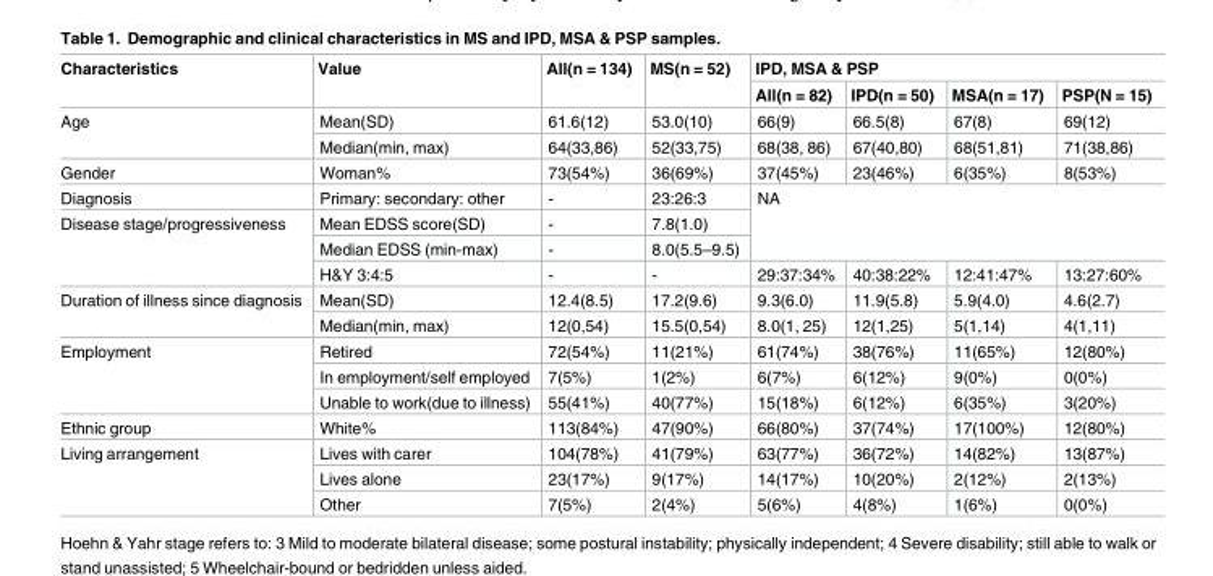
<table><thead><tr><td rowspan="2">Characteristics</td><td rowspan="2">Value</td><td rowspan="2">All(n = 134)</td><td rowspan="2">MS(n = 52)</td><td colspan="4">IPD, MSA &amp; PSP</td></tr><tr><td>All(n = 82)</td><td>IPD(n = 50)</td><td>MSA(n = 17)</td><td>PSP(N = 15)</td></tr></thead><tbody><tr><td rowspan="2">Age</td><td>Mean(SD)</td><td>61.6(12)</td><td>53.0(10)</td><td>66(9)</td><td>66.5(8)</td><td>67(8)</td><td>69(12)</td></tr><tr><td>Median(min, max)</td><td>64(33,86)</td><td>52(33,75)</td><td>68(38, 86)</td><td>67(40,80)</td><td>68(51,81)</td><td>71(38,86)</td></tr><tr><td>Gender</td><td>Woman%</td><td>73(54%)</td><td>36(69%)</td><td>37(45%)</td><td>23(46%)</td><td>6(35%)</td><td>8(53%)</td></tr><tr><td>Diagnosis</td><td>Primary: secondary: other</td><td>-</td><td>23:26:3</td><td rowspan="3" colspan="4">NA</td></tr><tr><td rowspan="3">Disease stage/progressiveness</td><td>Mean EDSS score(SD)</td><td>-</td><td>7.8(1.0)</td></tr><tr><td>Median EDSS (min-max)</td><td>-</td><td>8.0(5.5–9.5)</td></tr><tr><td>H&amp;Y 3:4:5</td><td>-</td><td>-</td><td>29:37:34%</td><td>40:38:22%</td><td>12:41:47%</td><td>13:27:60%</td></tr><tr><td rowspan="2">Duration of illness since diagnosis</td><td>Mean(SD)</td><td>12.4(8.5)</td><td>17.2(9.6)</td><td>9.3(6.0)</td><td>11.9(5.8)</td><td>5.9(4.0)</td><td>4.6(2.7)</td></tr><tr><td>Median(min, max)</td><td>12(0,54)</td><td>15.5(0,54)</td><td>8.0(1, 25)</td><td>12(1,25)</td><td>5(1,14)</td><td>4(1,11)</td></tr><tr><td rowspan="3">Employment</td><td>Retired</td><td>72(54%)</td><td>11(21%)</td><td>61(74%)</td><td>38(76%)</td><td>11(65%)</td><td>12(80%)</td></tr><tr><td>In employment/self employed</td><td>7(5%)</td><td>1(2%)</td><td>6(7%)</td><td>6(12%)</td><td>9(0%)</td><td>0(0%)</td></tr><tr><td>Unable to work(due to illness)</td><td>55(41%)</td><td>40(77%)</td><td>15(18%)</td><td>6(12%)</td><td>6(35%)</td><td>3(20%)</td></tr><tr><td>Ethnic group</td><td>White%</td><td>113(84%)</td><td>47(90%)</td><td>66(80%)</td><td>37(74%)</td><td>17(100%)</td><td>12(80%)</td></tr><tr><td rowspan="3">Living arrangement</td><td>Lives with carer</td><td>104(78%)</td><td>41(79%)</td><td>63(77%)</td><td>36(72%)</td><td>14(82%)</td><td>13(87%)</td></tr><tr><td>Lives alone</td><td>23(17%)</td><td>9(17%)</td><td>14(17%)</td><td>10(20%)</td><td>2(12%)</td><td>2(13%)</td></tr><tr><td>Other</td><td>7(5%)</td><td>2(4%)</td><td>5(6%)</td><td>4(8%)</td><td>1(6%)</td><td>0(0%)</td></tr></tbody></table>